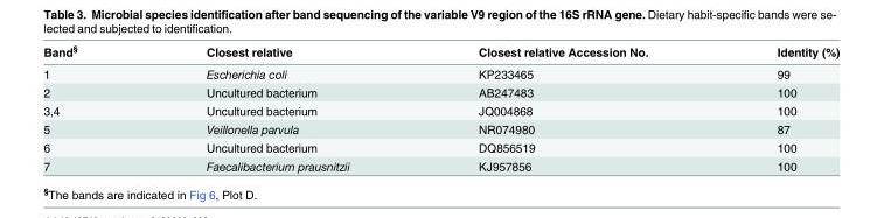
<table><thead><tr><td>Band<sup>§</sup></td><td>Closest relative</td><td>Closest relative Accession No.</td><td>Identity (%)</td></tr></thead><tbody><tr><td>1</td><td>Escherichia coli</td><td>KP233465</td><td>99</td></tr><tr><td>2</td><td>Uncultured bacterium</td><td>AB247483</td><td>100</td></tr><tr><td>3,4</td><td>Uncultured bacterium</td><td>JQ004868</td><td>100</td></tr><tr><td>5</td><td>Veillonella parvula</td><td>NR074980</td><td>87</td></tr><tr><td>6</td><td>Uncultured bacterium</td><td>DQ856519</td><td>100</td></tr><tr><td>7</td><td>Faecalibacterium prausnitzii</td><td>KJ957856</td><td>100</td></tr></tbody></table>